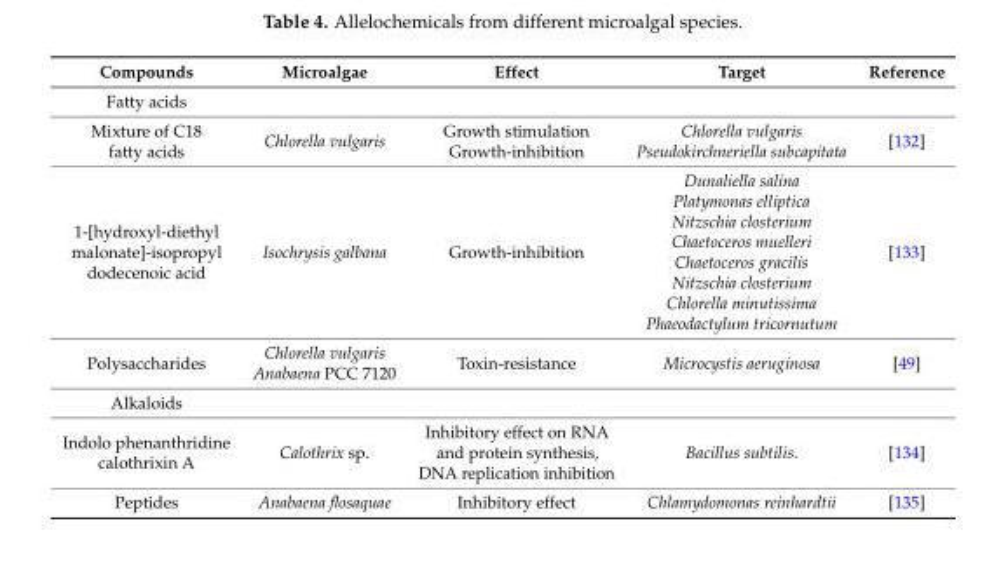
<table><thead><tr><td>Compounds</td><td>Microalgae</td><td>Effect</td><td>Target</td><td>Reference</td></tr></thead><tbody><tr><td colspan="5">Fatty acids</td></tr><tr><td>Mixture of C18 fatty acids</td><td>Chlorella vulgaris</td><td>Growth stimulation Growth-inhibition</td><td>Chlorella vulgaris Pseudokirchneriella subcapitata</td><td>[132]</td></tr><tr><td>1-[hydroxyl-diethyl malonate]-isopropyl dodecenoic acid</td><td>Isochrysis galbana</td><td>Growth-inhibition</td><td>Dunaliella salina Platymonas elliptica Nitzschia closterium Chaetoceros muelleri Chaetoceros gracilis Nitzschia closterium Chlorella minutissima Phaeodactylum tricornutum</td><td>[133]</td></tr><tr><td>Polysaccharides</td><td>Chlorella vulgaris Anabaena PCC 7120</td><td>Toxin-resistance</td><td>Microcystis aeruginosa</td><td>[49]</td></tr><tr><td colspan="5">Alkaloids</td></tr><tr><td>Indolo phenanthridine calothrixin A</td><td>Calothrix sp.</td><td>Inhibitory effect on RNA and protein synthesis, DNA replication inhibition</td><td>Bacillus subtilis.</td><td>[134]</td></tr><tr><td>Peptides</td><td>Anabaena flosaquae</td><td>Inhibitory effect</td><td>Chlamydomonas reinhardtii</td><td>[135]</td></tr></tbody></table>